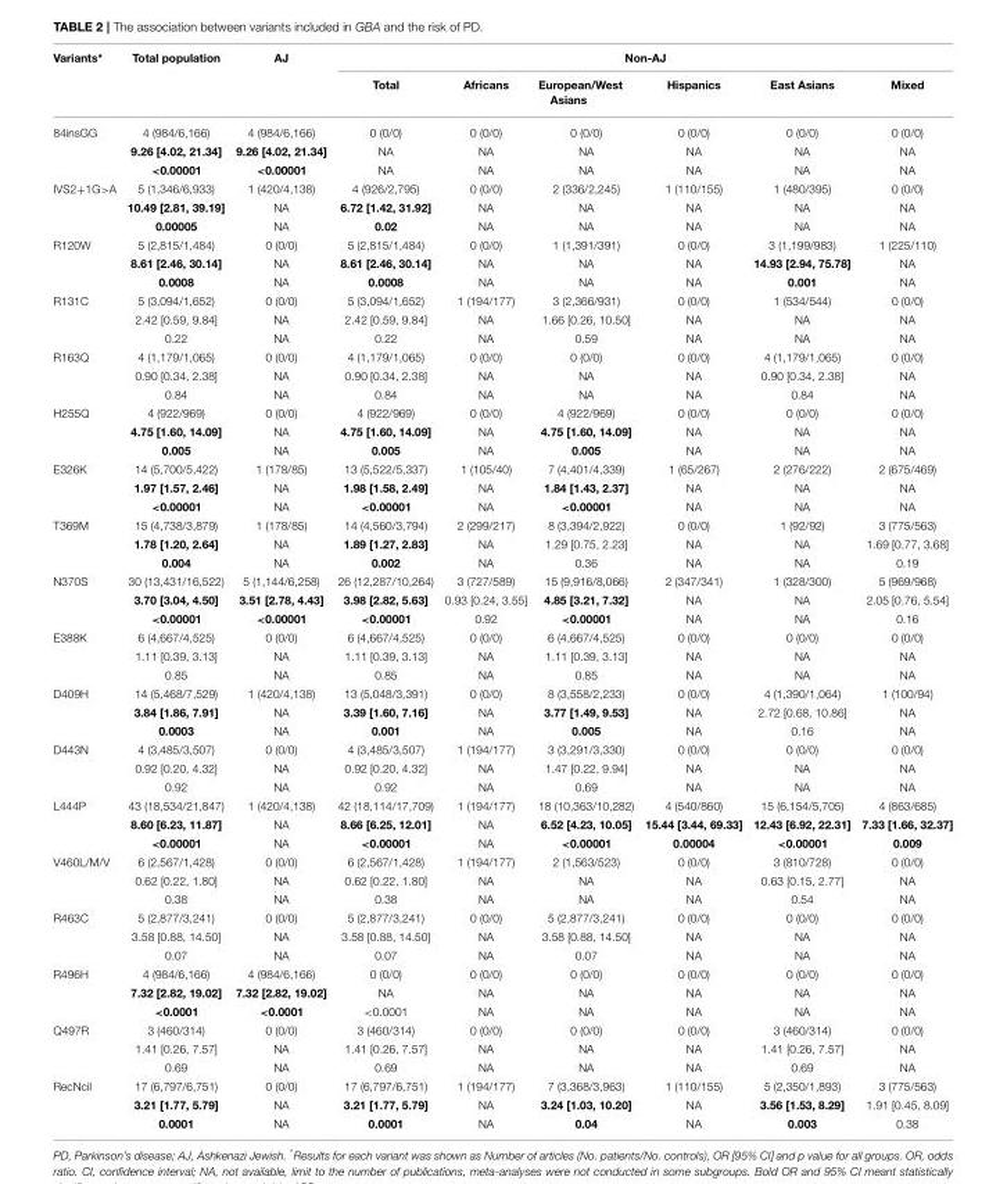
<table><thead><tr><td rowspan="2">Variants*</td><td rowspan="2">Total population</td><td rowspan="2">AJ</td><td colspan="6">Non-AJ</td></tr><tr><td>Total</td><td>Africans</td><td>European/West Asians</td><td>Hispanics</td><td>East Asians</td><td>Mixed</td></tr></thead><tbody><tr><td rowspan="3">84insGG</td><td>4 (984/6,166)</td><td>4 (984/6,166)</td><td>0 (0/0)</td><td>0 (0/0)</td><td>0 (0/0)</td><td>0 (0/0)</td><td>0 (0/0)</td><td>0 (0/0)</td></tr><tr><td>9.26 [4.02, 21.34]</td><td>9.26 [4.02, 21.34]</td><td>NA</td><td>NA</td><td>NA</td><td>NA</td><td>NA</td><td>NA</td></tr><tr><td>&lt;0.00001</td><td>&lt;0.00001</td><td>NA</td><td>NA</td><td>NA</td><td>NA</td><td>NA</td><td>NA</td></tr><tr><td rowspan="3">IVS2+1G&gt;A</td><td>5 (1,346/6,933)</td><td>1 (420/4,138)</td><td>4 (926/2,795)</td><td>0 (0/0)</td><td>2 (336/2,245)</td><td>1 (110/155)</td><td>1 (480/395)</td><td>0 (0/0)</td></tr><tr><td>10.49 [2.81, 39.19]</td><td>NA</td><td>6.72 [1.42, 31.92]</td><td>NA</td><td>NA</td><td>NA</td><td>NA</td><td>NA</td></tr><tr><td>0.00005</td><td>NA</td><td>0.02</td><td>NA</td><td>NA</td><td>NA</td><td>NA</td><td>NA</td></tr><tr><td rowspan="3">R120W</td><td>5 (2,815/1,484)</td><td>0 (0/0)</td><td>5 (2,815/1,484)</td><td>0 (0/0)</td><td>1 (1,391/391)</td><td>0 (0/0)</td><td>3 (1,199/983)</td><td>1 (225/110)</td></tr><tr><td>8.61 [2.46, 30.14]</td><td>NA</td><td>8.61 [2.46, 30.14]</td><td>NA</td><td>NA</td><td>NA</td><td>14.93 [2.94, 75.78]</td><td>NA</td></tr><tr><td>0.0008</td><td>NA</td><td>0.0008</td><td>NA</td><td>NA</td><td>NA</td><td>0.001</td><td>NA</td></tr><tr><td rowspan="3">R131C</td><td>5 (3,094/1,652)</td><td>0 (0/0)</td><td>5 (3,094/1,652)</td><td>1 (194/177)</td><td>3 (2,366/931)</td><td>0 (0/0)</td><td>1 (534/544)</td><td>0 (0/0)</td></tr><tr><td>2.42 [0.59, 9.84]</td><td>NA</td><td>2.42 [0.59, 9.84]</td><td>NA</td><td>1.66 [0.26, 10.50]</td><td>NA</td><td>NA</td><td>NA</td></tr><tr><td>0.22</td><td>NA</td><td>0.22</td><td>NA</td><td>0.59</td><td>NA</td><td>NA</td><td>NA</td></tr><tr><td rowspan="3">R163Q</td><td>4 (1,179/1,065)</td><td>0 (0/0)</td><td>4 (1,179/1,065)</td><td>0 (0/0)</td><td>0 (0/0)</td><td>0 (0/0)</td><td>4 (1,179/1,065)</td><td>0 (0/0)</td></tr><tr><td>0.90 [0.34, 2.38]</td><td>NA</td><td>0.90 [0.34, 2.38]</td><td>NA</td><td>NA</td><td>NA</td><td>0.90 [0.34, 2.38]</td><td>NA</td></tr><tr><td>0.84</td><td>NA</td><td>0.84</td><td>NA</td><td>NA</td><td>NA</td><td>0.84</td><td>NA</td></tr><tr><td rowspan="3">H255Q</td><td>4 (922/969)</td><td>0 (0/0)</td><td>4 (922/969)</td><td>0 (0/0)</td><td>4 (922/969)</td><td>0 (0/0)</td><td>0 (0/0)</td><td>0 (0/0)</td></tr><tr><td>4.75 [1.60, 14.09]</td><td>NA</td><td>4.75 [1.60, 14.09]</td><td>NA</td><td>4.75 [1.60, 14.09]</td><td>NA</td><td>NA</td><td>NA</td></tr><tr><td>0.005</td><td>NA</td><td>0.005</td><td>NA</td><td>0.005</td><td>NA</td><td>NA</td><td>NA</td></tr><tr><td rowspan="3">E326K</td><td>14 (5,700/5,422)</td><td>1 (178/85)</td><td>13 (5,522/5,337)</td><td>1 (105/40)</td><td>7 (4,401/4,339)</td><td>1 (65/267)</td><td>2 (276/222)</td><td>2 (675/469)</td></tr><tr><td>1.97 [1.57, 2.46]</td><td>NA</td><td>1.98 [1.58, 2.49]</td><td>NA</td><td>1.84 [1.43, 2.37]</td><td>NA</td><td>NA</td><td>NA</td></tr><tr><td>&lt;0.00001</td><td>NA</td><td>&lt;0.00001</td><td>NA</td><td>&lt;0.00001</td><td>NA</td><td>NA</td><td>NA</td></tr><tr><td rowspan="3">T369M</td><td>15 (4,738/3,879)</td><td>1 (178/85)</td><td>14 (4,560/3,794)</td><td>2 (299/217)</td><td>8 (3,394/2,922)</td><td>0 (0/0)</td><td>1 (92/92)</td><td>3 (775/563)</td></tr><tr><td>1.78 [1.20, 2.64]</td><td>NA</td><td>1.89 [1.27, 2.83]</td><td>NA</td><td>1.29 [0.75, 2.23]</td><td>NA</td><td>NA</td><td>1.69 [0.77, 3.68]</td></tr><tr><td>0.004</td><td>NA</td><td>0.002</td><td>NA</td><td>0.36</td><td>NA</td><td>NA</td><td>0.19</td></tr><tr><td rowspan="3">N370S</td><td>30 (13,431/16,522)</td><td>5 (1,144/6,258)</td><td>26 (12,287/10,264)</td><td>3 (727/589)</td><td>15 (9,916/8,066)</td><td>2 (347/341)</td><td>1 (328/300)</td><td>5 (969/968)</td></tr><tr><td>3.70 [3.04, 4.50]</td><td>3.51 [2.78, 4.43]</td><td>3.98 [2.82, 5.63]</td><td>0.93 [0.24, 3.55]</td><td>4.85 [3.21, 7.32]</td><td>NA</td><td>NA</td><td>2.05 [0.76, 5.54]</td></tr><tr><td>&lt;0.00001</td><td>&lt;0.00001</td><td>&lt;0.00001</td><td>0.92</td><td>&lt;0.00001</td><td>NA</td><td>NA</td><td>0.16</td></tr><tr><td rowspan="3">E388K</td><td>6 (4,667/4,525)</td><td>0 (0/0)</td><td>6 (4,667/4,525)</td><td>0 (0/0)</td><td>6 (4,667/4,525)</td><td>0 (0/0)</td><td>0 (0/0)</td><td>0 (0/0)</td></tr><tr><td>1.11 [0.39, 3.13]</td><td>NA</td><td>1.11 [0.39, 3.13]</td><td>NA</td><td>1.11 [0.39, 3.13]</td><td>NA</td><td>NA</td><td>NA</td></tr><tr><td>0.85</td><td>NA</td><td>0.85</td><td>NA</td><td>0.85</td><td>NA</td><td>NA</td><td>NA</td></tr><tr><td rowspan="3">D409H</td><td>14 (5,468/7,529)</td><td>1 (420/4,138)</td><td>13 (5,048/3,391)</td><td>0 (0/0)</td><td>8 (3,558/2,233)</td><td>0 (0/0)</td><td>4 (1,390/1,064)</td><td>1 (100/94)</td></tr><tr><td>3.84 [1.86, 7.91]</td><td>NA</td><td>3.39 [1.60, 7.16]</td><td>NA</td><td>3.77 [1.49, 9.53]</td><td>NA</td><td>2.72 [0.68, 10.86]</td><td>NA</td></tr><tr><td>0.0003</td><td>NA</td><td>0.001</td><td>NA</td><td>0.005</td><td>NA</td><td>0.16</td><td>NA</td></tr><tr><td rowspan="3">D443N</td><td>4 (3,485/3,507)</td><td>0 (0/0)</td><td>4 (3,485/3,507)</td><td>1 (194/177)</td><td>3 (3,291/3,330)</td><td>0 (0/0)</td><td>0 (0/0)</td><td>0 (0/0)</td></tr><tr><td>0.92 [0.20, 4.32]</td><td>NA</td><td>0.92 [0.20, 4.32]</td><td>NA</td><td>1.47 [0.22, 9.94]</td><td>NA</td><td>NA</td><td>NA</td></tr><tr><td>0.92</td><td>NA</td><td>0.92</td><td>NA</td><td>0.69</td><td>NA</td><td>NA</td><td>NA</td></tr><tr><td rowspan="3">L444P</td><td>43 (18,534/21,847)</td><td>1 (420/4,138)</td><td>42 (18,114/17,709)</td><td>1 (194/177)</td><td>18 (10,363/10,282)</td><td>4 (540/860)</td><td>15 (6,154/5,705)</td><td>4 (863/685)</td></tr><tr><td>8.60 [6.23, 11.87]</td><td>NA</td><td>8.66 [6.25, 12.01]</td><td>NA</td><td>6.52 [4.23, 10.05]</td><td>15.44 [3.44, 69.33]</td><td>12.43 [6.92, 22.31]</td><td>7.33 [1.66, 32.37]</td></tr><tr><td>&lt;0.00001</td><td>NA</td><td>&lt;0.00001</td><td>NA</td><td>&lt;0.00001</td><td>0.00004</td><td>&lt;0.00001</td><td>0.009</td></tr><tr><td rowspan="3">V460L/M/V</td><td>6 (2,567/1,428)</td><td>0 (0/0)</td><td>6 (2,567/1,428)</td><td>1 (194/177)</td><td>2 (1,563/523)</td><td>0 (0/0)</td><td>3 (810/728)</td><td>0 (0/0)</td></tr><tr><td>0.62 [0.22, 1.80]</td><td>NA</td><td>0.62 [0.22, 1.80]</td><td>NA</td><td>NA</td><td>NA</td><td>0.63 [0.15, 2.77]</td><td>NA</td></tr><tr><td>0.38</td><td>NA</td><td>0.38</td><td>NA</td><td>NA</td><td>NA</td><td>0.54</td><td>NA</td></tr><tr><td rowspan="3">R463C</td><td>5 (2,877/3,241)</td><td>0 (0/0)</td><td>5 (2,877/3,241)</td><td>0 (0/0)</td><td>5 (2,877/3,241)</td><td>0 (0/0)</td><td>0 (0/0)</td><td>0 (0/0)</td></tr><tr><td>3.58 [0.88, 14.50]</td><td>NA</td><td>3.58 [0.88, 14.50]</td><td>NA</td><td>3.58 [0.88, 14.50]</td><td>NA</td><td>NA</td><td>NA</td></tr><tr><td>0.07</td><td>NA</td><td>0.07</td><td>NA</td><td>0.07</td><td>NA</td><td>NA</td><td>NA</td></tr><tr><td rowspan="3">R496H</td><td>4 (984/6,166)</td><td>4 (984/6,166)</td><td>0 (0/0)</td><td>0 (0/0)</td><td>0 (0/0)</td><td>0 (0/0)</td><td>0 (0/0)</td><td>0 (0/0)</td></tr><tr><td>7.32 [2.82, 19.02]</td><td>7.32 [2.82, 19.02]</td><td>NA</td><td>NA</td><td>NA</td><td>NA</td><td>NA</td><td>NA</td></tr><tr><td>&lt;0.0001</td><td>&lt;0.0001</td><td>&lt;0.0001</td><td>NA</td><td>NA</td><td>NA</td><td>NA</td><td>NA</td></tr><tr><td rowspan="3">Q497R</td><td>3 (460/314)</td><td>0 (0/0)</td><td>3 (460/314)</td><td>0 (0/0)</td><td>0 (0/0)</td><td>0 (0/0)</td><td>3 (460/314)</td><td>0 (0/0)</td></tr><tr><td>1.41 [0.26, 7.57]</td><td>NA</td><td>1.41 [0.26, 7.57]</td><td>NA</td><td>NA</td><td>NA</td><td>1.41 [0.26, 7.57]</td><td>NA</td></tr><tr><td>0.69</td><td>NA</td><td>0.69</td><td>NA</td><td>NA</td><td>NA</td><td>0.69</td><td>NA</td></tr><tr><td rowspan="3">RecNciI</td><td>17 (6,797/6,751)</td><td>0 (0/0)</td><td>17 (6,797/6,751)</td><td>1 (194/177)</td><td>7 (3,368/3,963)</td><td>1 (110/155)</td><td>5 (2,350/1,893)</td><td>3 (775/563)</td></tr><tr><td>3.21 [1.77, 5.79]</td><td>NA</td><td>3.21 [1.77, 5.79]</td><td>NA</td><td>3.24 [1.03, 10.20]</td><td>NA</td><td>3.56 [1.53, 8.29]</td><td>1.91 [0.45, 8.09]</td></tr><tr><td>0.0001</td><td>NA</td><td>0.0001</td><td>NA</td><td>0.04</td><td>NA</td><td>0.003</td><td>0.38</td></tr></tbody></table>